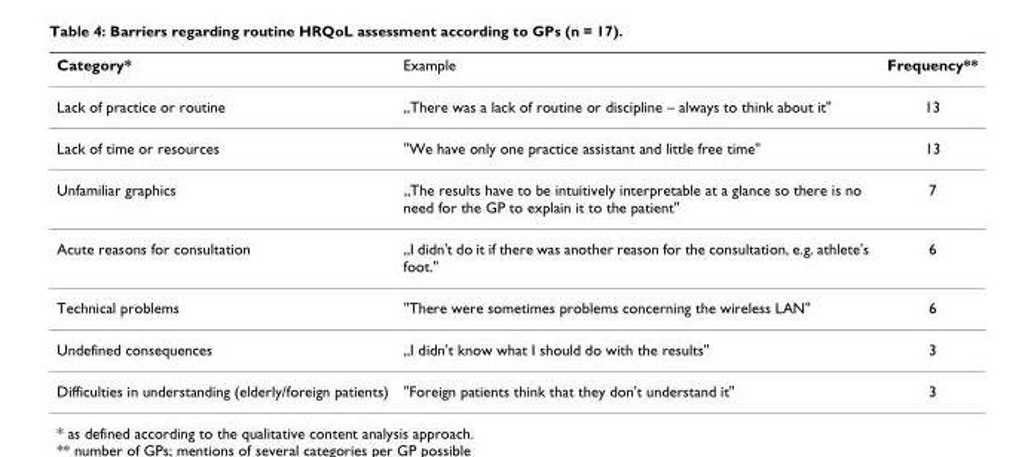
<table><thead><tr><td>Category*</td><td>Example</td><td>Frequency**</td></tr></thead><tbody><tr><td>Lack of practice or routine</td><td>„There was a lack of routine or discipline – always to think about it&quot;</td><td>13</td></tr><tr><td>Lack of time or resources</td><td>&quot;We have only one practice assistant and little free time&quot;</td><td>13</td></tr><tr><td>Unfamiliar graphics</td><td>„The results have to be intuitively interpretable at a glance so there is no need for the GP to explain it to the patient&quot;</td><td>7</td></tr><tr><td>Acute reasons for consultation</td><td>„I didn&#x27;t do it if there was another reason for the consultation, e.g. athlete&#x27;s foot.&quot;</td><td>6</td></tr><tr><td>Technical problems</td><td>&quot;There were sometimes problems concerning the wireless LAN&quot;</td><td>6</td></tr><tr><td>Undefined consequences</td><td>„I didn&#x27;t know what I should do with the results&quot;</td><td>3</td></tr><tr><td>Difficulties in understanding (elderly/foreign patients)</td><td>&quot;Foreign patients think that they don&#x27;t understand it&quot;</td><td>3</td></tr></tbody></table>